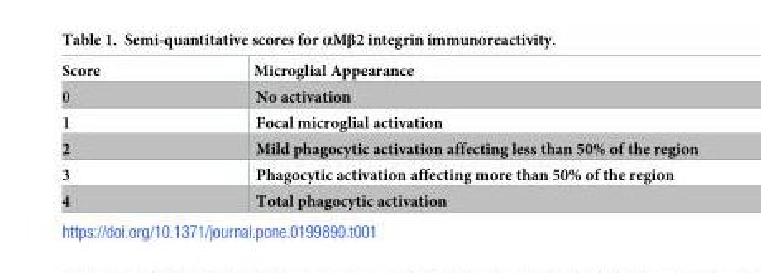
<table><thead><tr><td>Score</td><td>Microglial Appearance</td></tr></thead><tbody><tr><td>0</td><td>No activation</td></tr><tr><td>1</td><td>Focal microglial activation</td></tr><tr><td>2</td><td>Mild phagocytic activation affecting less than 50% of the region</td></tr><tr><td>3</td><td>Phagocytic activation affecting more than 50% of the region</td></tr><tr><td>4</td><td>Total phagocytic activation</td></tr></tbody></table>